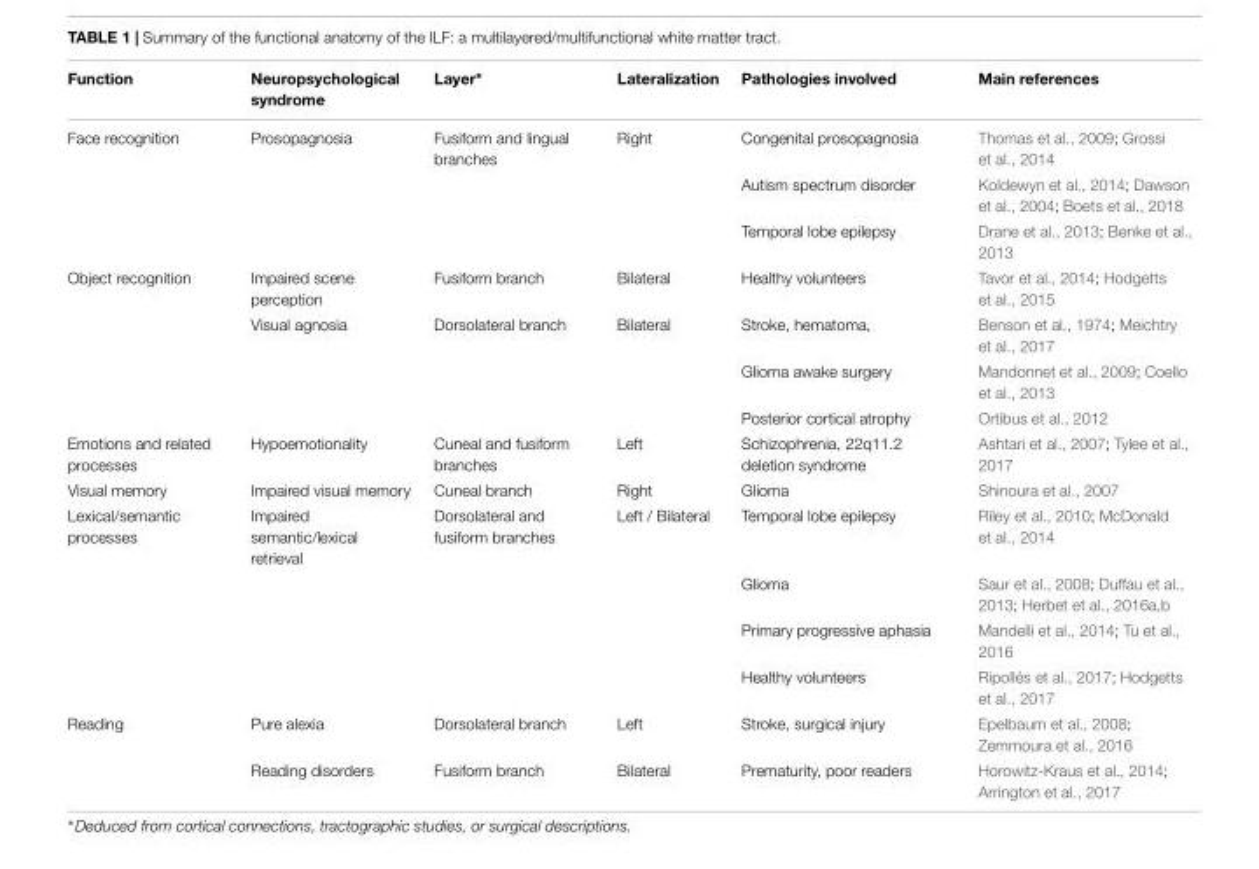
<table><thead><tr><td>Function</td><td>Neuropsychological syndrome</td><td>Layer∗</td><td>Lateralization</td><td>Pathologies involved</td><td>Main references</td></tr></thead><tbody><tr><td rowspan="3">Face recognition</td><td>Prosopagnosia</td><td>Fusiform and lingual branches</td><td>Right</td><td>Congenital prosopagnosia</td><td>Thomas et al., 2009; Grossi et al., 2014</td></tr><tr><td></td><td></td><td></td><td>Autism spectrum disorder</td><td>Koldewyn et al., 2014; Dawson et al., 2004; Boets et al., 2018</td></tr><tr><td></td><td></td><td></td><td>Temporal lobe epilepsy</td><td>Drane et al., 2013; Benke et al., 2013</td></tr><tr><td rowspan="4">Object recognition</td><td>Impaired scene perception</td><td>Fusiform branch</td><td>Bilateral</td><td>Healthy volunteers</td><td>Tavor et al., 2014; Hodgetts et al., 2015</td></tr><tr><td>Visual agnosia</td><td>Dorsolateral branch</td><td>Bilateral</td><td>Stroke, hematoma,</td><td>Benson et al., 1974; Meichtry et al., 2017</td></tr><tr><td></td><td></td><td></td><td>Glioma awake surgery</td><td>Mandonnet et al., 2009; Coello et al., 2013</td></tr><tr><td></td><td></td><td></td><td>Posterior cortical atrophy</td><td>Ortibus et al., 2012</td></tr><tr><td>Emotions and related processes</td><td>Hypoemotionality</td><td>Cuneal and fusiform branches</td><td>Left</td><td>Schizophrenia, 22q11.2 deletion syndrome</td><td>Ashtari et al., 2007; Tylee et al., 2017</td></tr><tr><td>Visual memory</td><td>Impaired visual memory</td><td>Cuneal branch</td><td>Right</td><td>Glioma</td><td>Shinoura et al., 2007</td></tr><tr><td rowspan="4">Lexical/semantic processes</td><td>Impaired semantic/lexical retrieval</td><td>Dorsolateral and fusiform branches</td><td>Left / Bilateral</td><td>Temporal lobe epilepsy</td><td>Riley et al., 2010; McDonald et al., 2014</td></tr><tr><td></td><td></td><td></td><td>Glioma</td><td>Saur et al., 2008; Duffau et al., 2013; Herbet et al., 2016a,b</td></tr><tr><td></td><td></td><td></td><td>Primary progressive aphasia</td><td>Mandelli et al., 2014; Tu et al., 2016</td></tr><tr><td></td><td></td><td></td><td>Healthy volunteers</td><td>Ripollés et al., 2017; Hodgetts et al., 2017</td></tr><tr><td rowspan="2">Reading</td><td>Pure alexia</td><td>Dorsolateral branch</td><td>Left</td><td>Stroke, surgical injury</td><td>Epelbaum et al., 2008; Zemmoura et al., 2016</td></tr><tr><td>Reading disorders</td><td>Fusiform branch</td><td>Bilateral</td><td>Prematurity, poor readers</td><td>Horowitz-Kraus et al., 2014; Arrington et al., 2017</td></tr></tbody></table>